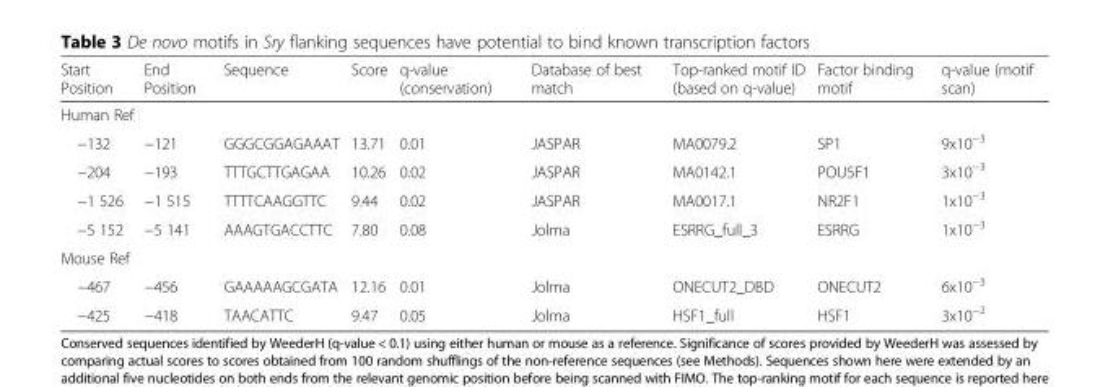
<table><thead><tr><td>Start Position</td><td>End Position</td><td>Sequence</td><td>Score</td><td>q-value (conservation)</td><td>Database of best match</td><td>Top-ranked motif ID (based on q-value)</td><td>Factor binding motif</td><td>q-value (motif scan)</td></tr></thead><tbody><tr><td colspan="9">Human Ref</td></tr><tr><td>−132</td><td>−121</td><td>GGGCGGAGAAAT</td><td>13.71</td><td>0.01</td><td>JASPAR</td><td>MA0079.2</td><td>SP1</td><td>9x10<sup>−3</sup></td></tr><tr><td>−204</td><td>−193</td><td>TTTGCTTGAGAA</td><td>10.26</td><td>0.02</td><td>JASPAR</td><td>MA0142.1</td><td>POU5F1</td><td>3x10<sup>−3</sup></td></tr><tr><td>−1 526</td><td>−1 515</td><td>TTTTCAAGGTTC</td><td>9.44</td><td>0.02</td><td>JASPAR</td><td>MA0017.1</td><td>NR2F1</td><td>1x10<sup>−3</sup></td></tr><tr><td>−5 152</td><td>−5 141</td><td>AAAGTGACCTTC</td><td>7.80</td><td>0.08</td><td>Jolma</td><td>ESRRG_full_3</td><td>ESRRG</td><td>1x10<sup>−3</sup></td></tr><tr><td colspan="9">Mouse Ref</td></tr><tr><td>−467</td><td>−456</td><td>GAAAAAGCGATA</td><td>12.16</td><td>0.01</td><td>Jolma</td><td>ONECUT2_DBD</td><td>ONECUT2</td><td>6x10<sup>−3</sup></td></tr><tr><td>−425</td><td>−418</td><td>TAACATTC</td><td>9.47</td><td>0.05</td><td>Jolma</td><td>HSF1_full</td><td>HSF1</td><td>3x10<sup>−2</sup></td></tr></tbody></table>